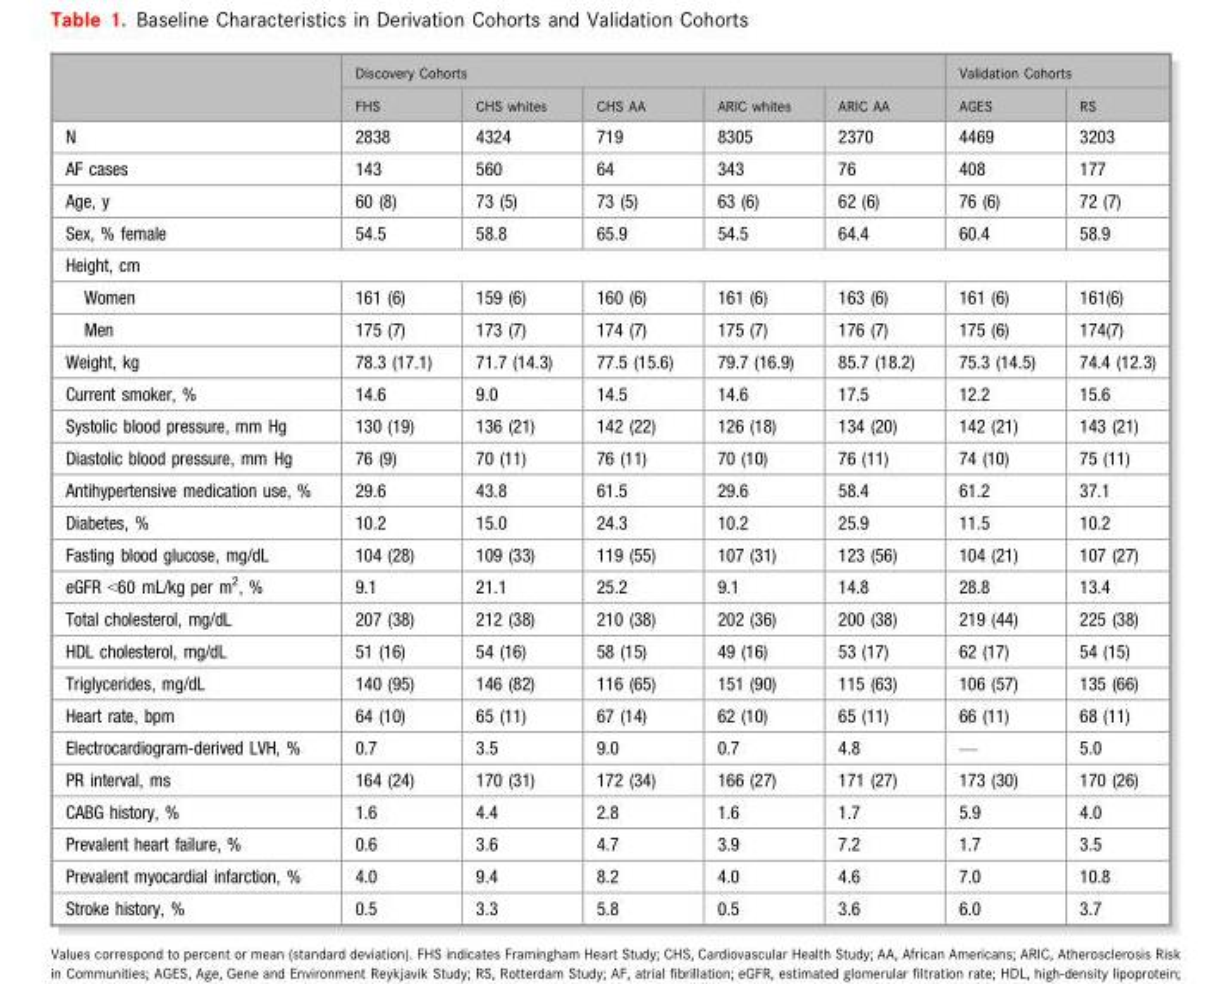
<table><thead><tr><td rowspan="2"></td><td colspan="5">Discovery Cohorts</td><td colspan="2">Validation Cohorts</td></tr><tr><td>FHS</td><td>CHS whites</td><td>CHS AA</td><td>ARIC whites</td><td>ARIC AA</td><td>AGES</td><td>RS</td></tr></thead><tbody><tr><td>N</td><td>2838</td><td>4324</td><td>719</td><td>8305</td><td>2370</td><td>4469</td><td>3203</td></tr><tr><td>AF cases</td><td>143</td><td>560</td><td>64</td><td>343</td><td>76</td><td>408</td><td>177</td></tr><tr><td>Age, y</td><td>60 (8)</td><td>73 (5)</td><td>73 (5)</td><td>63 (6)</td><td>62 (6)</td><td>76 (6)</td><td>72 (7)</td></tr><tr><td>Sex, % female</td><td>54.5</td><td>58.8</td><td>65.9</td><td>54.5</td><td>64.4</td><td>60.4</td><td>58.9</td></tr><tr><td colspan="8">Height, cm</td></tr><tr><td>Women</td><td>161 (6)</td><td>159 (6)</td><td>160 (6)</td><td>161 (6)</td><td>163 (6)</td><td>161 (6)</td><td>161(6)</td></tr><tr><td>Men</td><td>175 (7)</td><td>173 (7)</td><td>174 (7)</td><td>175 (7)</td><td>176 (7)</td><td>175 (6)</td><td>174(7)</td></tr><tr><td>Weight, kg</td><td>78.3 (17.1)</td><td>71.7 (14.3)</td><td>77.5 (15.6)</td><td>79.7 (16.9)</td><td>85.7 (18.2)</td><td>75.3 (14.5)</td><td>74.4 (12.3)</td></tr><tr><td>Current smoker, %</td><td>14.6</td><td>9.0</td><td>14.5</td><td>14.6</td><td>17.5</td><td>12.2</td><td>15.6</td></tr><tr><td>Systolic blood pressure, mm Hg</td><td>130 (19)</td><td>136 (21)</td><td>142 (22)</td><td>126 (18)</td><td>134 (20)</td><td>142 (21)</td><td>143 (21)</td></tr><tr><td>Diastolic blood pressure, mm Hg</td><td>76 (9)</td><td>70 (11)</td><td>76 (11)</td><td>70 (10)</td><td>76 (11)</td><td>74 (10)</td><td>75 (11)</td></tr><tr><td>Antihypertensive medication use, %</td><td>29.6</td><td>43.8</td><td>61.5</td><td>29.6</td><td>58.4</td><td>61.2</td><td>37.1</td></tr><tr><td>Diabetes, %</td><td>10.2</td><td>15.0</td><td>24.3</td><td>10.2</td><td>25.9</td><td>11.5</td><td>10.2</td></tr><tr><td>Fasting blood glucose, mg/dL</td><td>104 (28)</td><td>109 (33)</td><td>119 (55)</td><td>107 (31)</td><td>123 (56)</td><td>104 (21)</td><td>107 (27)</td></tr><tr><td>eGFR &lt;60 mL/kg per m<sup>2</sup>, %</td><td>9.1</td><td>21.1</td><td>25.2</td><td>9.1</td><td>14.8</td><td>28.8</td><td>13.4</td></tr><tr><td>Total cholesterol, mg/dL</td><td>207 (38)</td><td>212 (38)</td><td>210 (38)</td><td>202 (36)</td><td>200 (38)</td><td>219 (44)</td><td>225 (38)</td></tr><tr><td>HDL cholesterol, mg/dL</td><td>51 (16)</td><td>54 (16)</td><td>58 (15)</td><td>49 (16)</td><td>53 (17)</td><td>62 (17)</td><td>54 (15)</td></tr><tr><td>Triglycerides, mg/dL</td><td>140 (95)</td><td>146 (82)</td><td>116 (65)</td><td>151 (90)</td><td>115 (63)</td><td>106 (57)</td><td>135 (66)</td></tr><tr><td>Heart rate, bpm</td><td>64 (10)</td><td>65 (11)</td><td>67 (14)</td><td>62 (10)</td><td>65 (11)</td><td>66 (11)</td><td>68 (11)</td></tr><tr><td>Electrocardiogram-derived LVH, %</td><td>0.7</td><td>3.5</td><td>9.0</td><td>0.7</td><td>4.8</td><td>—</td><td>5.0</td></tr><tr><td>PR interval, ms</td><td>164 (24)</td><td>170 (31)</td><td>172 (34)</td><td>166 (27)</td><td>171 (27)</td><td>173 (30)</td><td>170 (26)</td></tr><tr><td>CABG history, %</td><td>1.6</td><td>4.4</td><td>2.8</td><td>1.6</td><td>1.7</td><td>5.9</td><td>4.0</td></tr><tr><td>Prevalent heart failure, %</td><td>0.6</td><td>3.6</td><td>4.7</td><td>3.9</td><td>7.2</td><td>1.7</td><td>3.5</td></tr><tr><td>Prevalent myocardial infarction, %</td><td>4.0</td><td>9.4</td><td>8.2</td><td>4.0</td><td>4.6</td><td>7.0</td><td>10.8</td></tr><tr><td>Stroke history, %</td><td>0.5</td><td>3.3</td><td>5.8</td><td>0.5</td><td>3.6</td><td>6.0</td><td>3.7</td></tr></tbody></table>